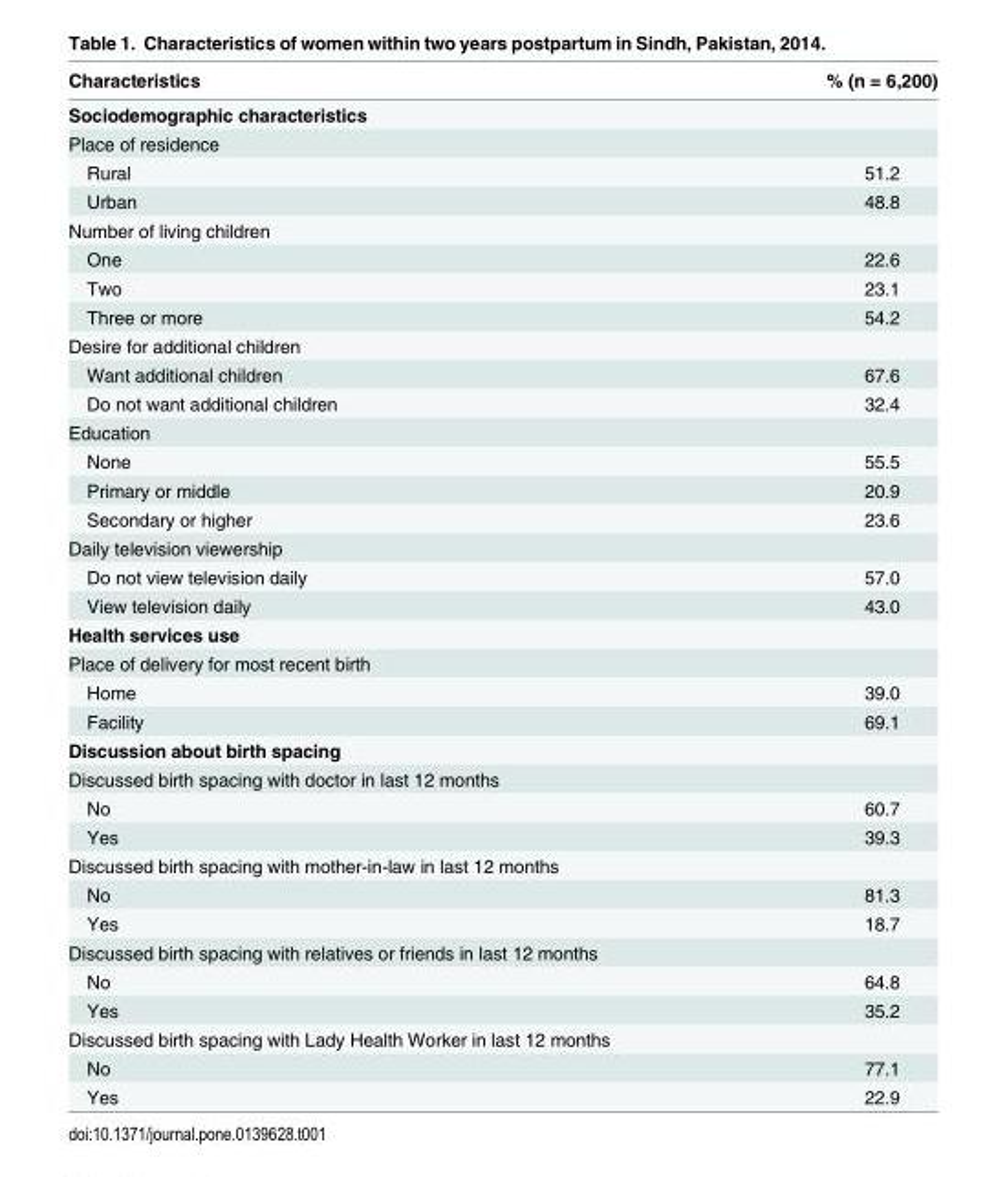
<table><thead><tr><td>Characteristics</td><td>% (n = 6,200)</td></tr></thead><tbody><tr><td colspan="2">Sociodemographic characteristics</td></tr><tr><td colspan="2">Place of residence</td></tr><tr><td>Rural</td><td>51.2</td></tr><tr><td>Urban</td><td>48.8</td></tr><tr><td colspan="2">Number of living children</td></tr><tr><td>One</td><td>22.6</td></tr><tr><td>Two</td><td>23.1</td></tr><tr><td>Three or more</td><td>54.2</td></tr><tr><td colspan="2">Desire for additional children</td></tr><tr><td>Want additional children</td><td>67.6</td></tr><tr><td>Do not want additional children</td><td>32.4</td></tr><tr><td colspan="2">Education</td></tr><tr><td>None</td><td>55.5</td></tr><tr><td>Primary or middle</td><td>20.9</td></tr><tr><td>Secondary or higher</td><td>23.6</td></tr><tr><td colspan="2">Daily television viewership</td></tr><tr><td>Do not view television daily</td><td>57.0</td></tr><tr><td>View television daily</td><td>43.0</td></tr><tr><td colspan="2">Health services use</td></tr><tr><td colspan="2">Place of delivery for most recent birth</td></tr><tr><td>Home</td><td>39.0</td></tr><tr><td>Facility</td><td>69.1</td></tr><tr><td colspan="2">Discussion about birth spacing</td></tr><tr><td colspan="2">Discussed birth spacing with doctor in last 12 months</td></tr><tr><td>No</td><td>60.7</td></tr><tr><td>Yes</td><td>39.3</td></tr><tr><td colspan="2">Discussed birth spacing with mother-in-law in last 12 months</td></tr><tr><td>No</td><td>81.3</td></tr><tr><td>Yes</td><td>18.7</td></tr><tr><td colspan="2">Discussed birth spacing with relatives or friends in last 12 months</td></tr><tr><td>No</td><td>64.8</td></tr><tr><td>Yes</td><td>35.2</td></tr><tr><td colspan="2">Discussed birth spacing with Lady Health Worker in last 12 months</td></tr><tr><td>No</td><td>77.1</td></tr><tr><td>Yes</td><td>22.9</td></tr></tbody></table>